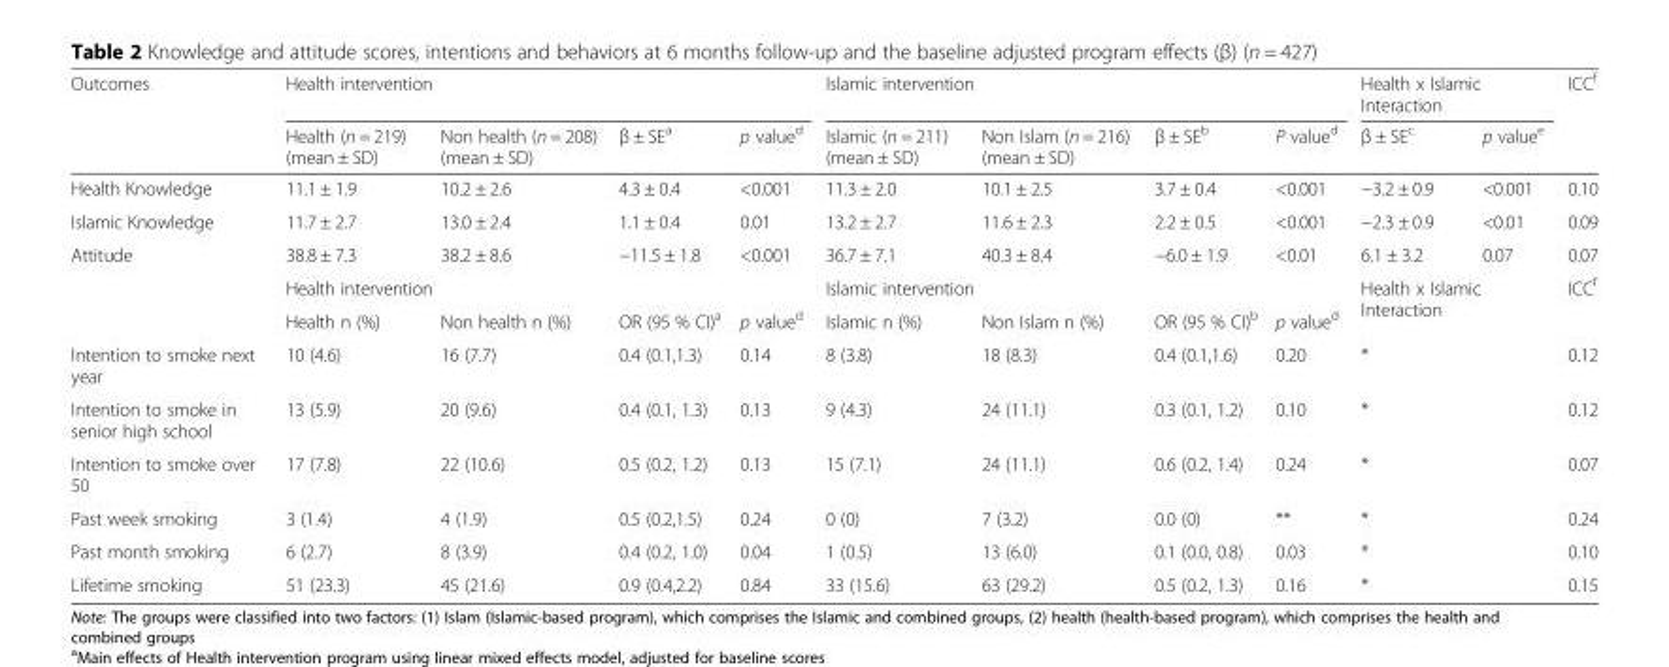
<table><thead><tr><td rowspan="2">Outcomes</td><td colspan="4">Health intervention</td><td colspan="4">Islamic intervention</td><td colspan="2">Health x Islamic Interaction</td><td rowspan="2">ICC<sup>f</sup></td></tr><tr><td>Health (n = 219) (mean ± SD)</td><td>Non health (n = 208) (mean ± SD)</td><td>β ± SE<sup>a</sup></td><td>p value<sup>d</sup></td><td>Islamic (n = 211) (mean ± SD)</td><td>Non Islam (n = 216) (mean ± SD)</td><td>β ± SE<sup>b</sup></td><td>P value<sup>d</sup></td><td>β ± SE<sup>c</sup></td><td>p value<sup>e</sup></td></tr></thead><tbody><tr><td>Health Knowledge</td><td>11.1 ± 1.9</td><td>10.2 ± 2.6</td><td>4.3 ± 0.4</td><td>&lt;0.001</td><td>11.3 ± 2.0</td><td>10.1 ± 2.5</td><td>3.7 ± 0.4</td><td>&lt;0.001</td><td>−3.2 ± 0.9</td><td>&lt;0.001</td><td>0.10</td></tr><tr><td>Islamic Knowledge</td><td>11.7 ± 2.7</td><td>13.0 ± 2.4</td><td>1.1 ± 0.4</td><td>0.01</td><td>13.2 ± 2.7</td><td>11.6 ± 2.3</td><td>2.2 ± 0.5</td><td>&lt;0.001</td><td>−2.3 ± 0.9</td><td>&lt;0.01</td><td>0.09</td></tr><tr><td rowspan="3">Attitude</td><td>38.8 ± 7.3</td><td>38.2 ± 8.6</td><td>−11.5 ± 1.8</td><td>&lt;0.001</td><td>36.7 ± 7.1</td><td>40.3 ± 8.4</td><td>−6.0 ± 1.9</td><td>&lt;0.01</td><td>6.1 ± 3.2</td><td>0.07</td><td>0.07</td></tr><tr><td colspan="4">Health intervention</td><td colspan="4">Islamic intervention</td><td rowspan="2" colspan="2">Health x Islamic Interaction</td><td rowspan="2">ICC<sup>f</sup></td></tr><tr><td>Health n (%)</td><td>Non health n (%)</td><td>OR (95 % CI)<sup>a</sup></td><td>p value<sup>d</sup></td><td>Islamic n (%)</td><td>Non Islam n (%)</td><td>OR (95 % CI)<sup>b</sup></td><td>p value<sup>d</sup></td></tr><tr><td>Intention to smoke next year</td><td>10 (4.6)</td><td>16 (7.7)</td><td>0.4 (0.1,1.3)</td><td>0.14</td><td>8 (3.8)</td><td>18 (8.3)</td><td>0.4 (0.1,1.6)</td><td>0.20</td><td colspan="2">*</td><td>0.12</td></tr><tr><td>Intention to smoke in senior high school</td><td>13 (5.9)</td><td>20 (9.6)</td><td>0.4 (0.1, 1.3)</td><td>0.13</td><td>9 (4.3)</td><td>24 (11.1)</td><td>0.3 (0.1, 1.2)</td><td>0.10</td><td colspan="2">*</td><td>0.12</td></tr><tr><td>Intention to smoke over 50</td><td>17 (7.8)</td><td>22 (10.6)</td><td>0.5 (0.2, 1.2)</td><td>0.13</td><td>15 (7.1)</td><td>24 (11.1)</td><td>0.6 (0.2, 1.4)</td><td>0.24</td><td colspan="2">*</td><td>0.07</td></tr><tr><td>Past week smoking</td><td>3 (1.4)</td><td>4 (1.9)</td><td>0.5 (0.2,1.5)</td><td>0.24</td><td>0 (0)</td><td>7 (3.2)</td><td>0.0 (0)</td><td>**</td><td colspan="2">*</td><td>0.24</td></tr><tr><td>Past month smoking</td><td>6 (2.7)</td><td>8 (3.9)</td><td>0.4 (0.2, 1.0)</td><td>0.04</td><td>1 (0.5)</td><td>13 (6.0)</td><td>0.1 (0.0, 0.8)</td><td>0.03</td><td colspan="2">*</td><td>0.10</td></tr><tr><td>Lifetime smoking</td><td>51 (23.3)</td><td>45 (21.6)</td><td>0.9 (0.4,2.2)</td><td>0.84</td><td>33 (15.6)</td><td>63 (29.2)</td><td>0.5 (0.2, 1.3)</td><td>0.16</td><td colspan="2">*</td><td>0.15</td></tr></tbody></table>